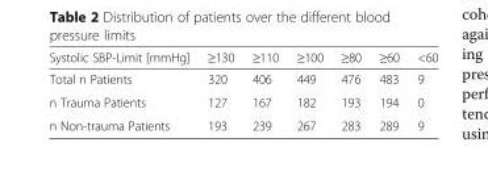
<table><thead><tr><td>Systolic SBP-Limit [mmHg]</td><td>≥130</td><td>≥110</td><td>≥100</td><td>≥80</td><td>≥60</td><td>&lt;60</td></tr></thead><tbody><tr><td>Total n Patients</td><td>320</td><td>406</td><td>449</td><td>476</td><td>483</td><td>9</td></tr><tr><td>n Trauma Patients</td><td>127</td><td>167</td><td>182</td><td>193</td><td>194</td><td>0</td></tr><tr><td>n Non-trauma Patients</td><td>193</td><td>239</td><td>267</td><td>283</td><td>289</td><td>9</td></tr></tbody></table>